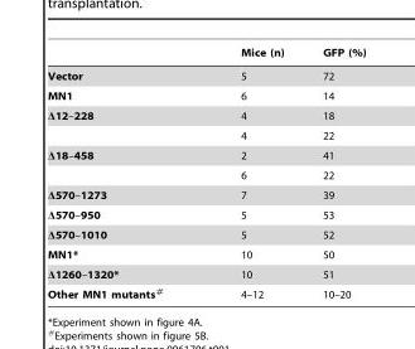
<table><thead><tr><td></td><td>Mice (n)</td><td>GFP (%)</td></tr></thead><tbody><tr><td>Vector</td><td>5</td><td>72</td></tr><tr><td>MN1</td><td>6</td><td>14</td></tr><tr><td rowspan="2">Δ12–228</td><td>4</td><td>18</td></tr><tr><td>4</td><td>22</td></tr><tr><td rowspan="2">Δ18–458</td><td>2</td><td>41</td></tr><tr><td>6</td><td>22</td></tr><tr><td>Δ570–1273</td><td>7</td><td>39</td></tr><tr><td>Δ570–950</td><td>5</td><td>53</td></tr><tr><td>Δ570–1010</td><td>5</td><td>52</td></tr><tr><td>MN1*</td><td>10</td><td>50</td></tr><tr><td>Δ1260–1320*</td><td>10</td><td>51</td></tr><tr><td>Other MN1 mutants#</td><td>4–12</td><td>10–20</td></tr></tbody></table>